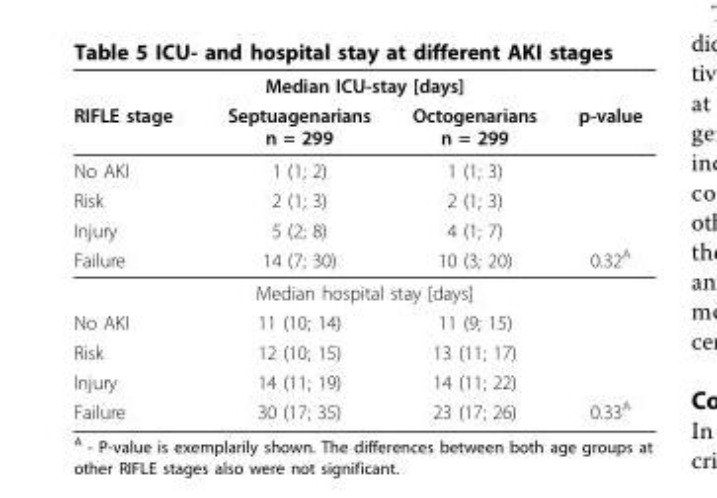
<table><thead><tr><td colspan="4">Median ICU-stay [days]</td></tr><tr><td>RIFLE stage</td><td>Septuagenarians n = 299</td><td>Octogenarians n = 299</td><td>p-value</td></tr></thead><tbody><tr><td>No AKI</td><td>1 (1; 2)</td><td>1 (1; 3)</td><td></td></tr><tr><td>Risk</td><td>2 (1; 3)</td><td>2 (1; 3)</td><td></td></tr><tr><td>Injury</td><td>5 (2; 8)</td><td>4 (1; 7)</td><td></td></tr><tr><td>Failure</td><td>14 (7; 30)</td><td>10 (3; 20)</td><td>0.32<sup>A</sup></td></tr><tr><td colspan="4">Median hospital stay [days]</td></tr><tr><td>No AKI</td><td>11 (10; 14)</td><td>11 (9; 15)</td><td></td></tr><tr><td>Risk</td><td>12 (10; 15)</td><td>13 (11; 17)</td><td></td></tr><tr><td>Injury</td><td>14 (11; 19)</td><td>14 (11; 22)</td><td></td></tr><tr><td>Failure</td><td>30 (17; 35)</td><td>23 (17; 26)</td><td>0.33<sup>A</sup></td></tr></tbody></table>